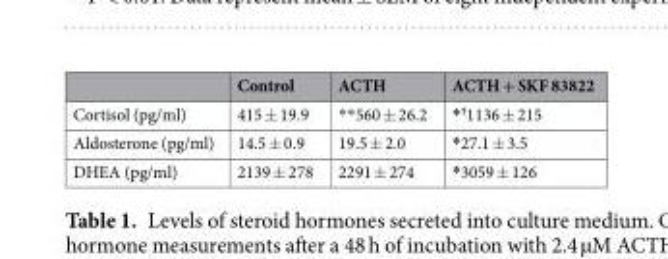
<table><thead><tr><td></td><td>Control</td><td>ACTH</td><td>ACTH + SKF 83822</td></tr></thead><tbody><tr><td>Cortisol (pg/ml)</td><td>415 ± 19.9</td><td>**560 ± 26.2</td><td>*<sup>†</sup>1136 ± 215</td></tr><tr><td>Aldosterone (pg/ml)</td><td>14.5 ± 0.9</td><td>19.5 ± 2.0</td><td>*27.1 ± 3.5</td></tr><tr><td>DHEA (pg/ml)</td><td>2139 ± 278</td><td>2291 ± 274</td><td>*3059 ± 126</td></tr></tbody></table>